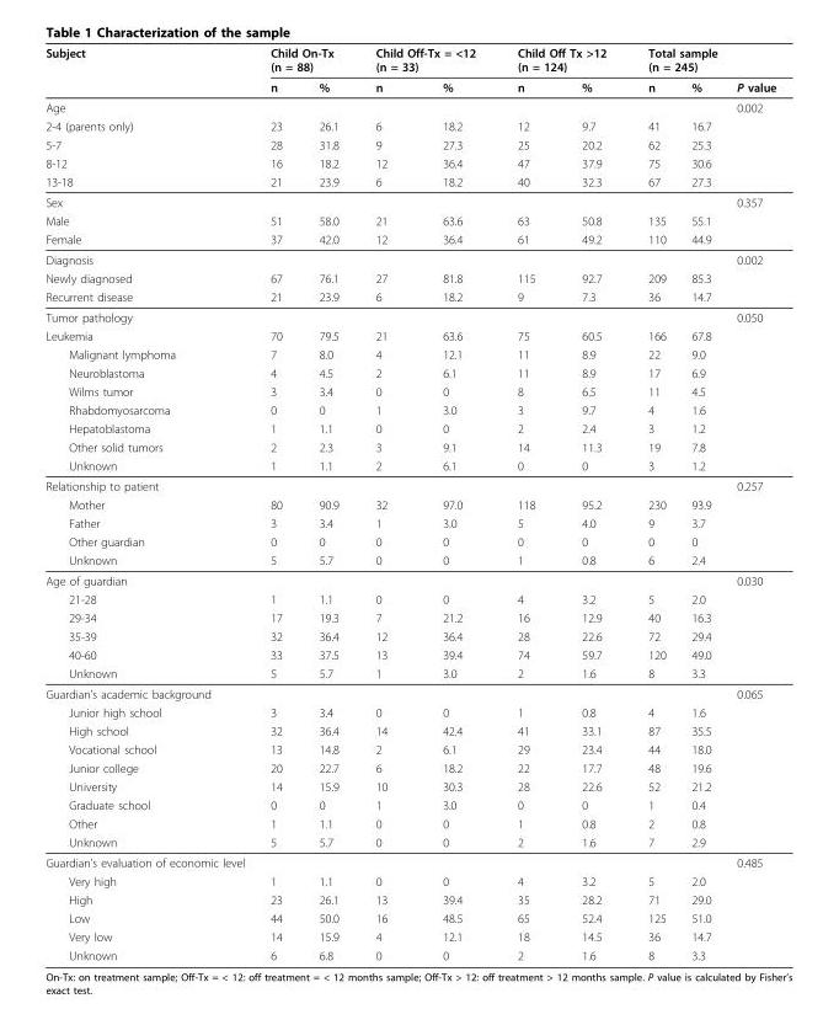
<table><thead><tr><td rowspan="2">Subject</td><td colspan="2">Child On-Tx (n = 88)</td><td colspan="2">Child Off-Tx = &lt;12 (n = 33)</td><td colspan="2">Child Off Tx &gt;12 (n = 124)</td><td colspan="3">Total sample (n = 245)</td></tr><tr><td>n</td><td>%</td><td>n</td><td>%</td><td>n</td><td>%</td><td>n</td><td>%</td><td>P value</td></tr></thead><tbody><tr><td>Age</td><td></td><td></td><td></td><td></td><td></td><td></td><td></td><td></td><td>0.002</td></tr><tr><td>2-4 (parents only)</td><td>23</td><td>26.1</td><td>6</td><td>18.2</td><td>12</td><td>9.7</td><td>41</td><td>16.7</td><td></td></tr><tr><td>5-7</td><td>28</td><td>31.8</td><td>9</td><td>27.3</td><td>25</td><td>20.2</td><td>62</td><td>25.3</td><td></td></tr><tr><td>8-12</td><td>16</td><td>18.2</td><td>12</td><td>36.4</td><td>47</td><td>37.9</td><td>75</td><td>30.6</td><td></td></tr><tr><td>13-18</td><td>21</td><td>23.9</td><td>6</td><td>18.2</td><td>40</td><td>32.3</td><td>67</td><td>27.3</td><td></td></tr><tr><td>Sex</td><td></td><td></td><td></td><td></td><td></td><td></td><td></td><td></td><td>0.357</td></tr><tr><td>Male</td><td>51</td><td>58.0</td><td>21</td><td>63.6</td><td>63</td><td>50.8</td><td>135</td><td>55.1</td><td></td></tr><tr><td>Female</td><td>37</td><td>42.0</td><td>12</td><td>36.4</td><td>61</td><td>49.2</td><td>110</td><td>44.9</td><td></td></tr><tr><td>Diagnosis</td><td></td><td></td><td></td><td></td><td></td><td></td><td></td><td></td><td>0.002</td></tr><tr><td>Newly diagnosed</td><td>67</td><td>76.1</td><td>27</td><td>81.8</td><td>115</td><td>92.7</td><td>209</td><td>85.3</td><td></td></tr><tr><td>Recurrent disease</td><td>21</td><td>23.9</td><td>6</td><td>18.2</td><td>9</td><td>7.3</td><td>36</td><td>14.7</td><td></td></tr><tr><td>Tumor pathology</td><td></td><td></td><td></td><td></td><td></td><td></td><td></td><td></td><td>0.050</td></tr><tr><td>Leukemia</td><td>70</td><td>79.5</td><td>21</td><td>63.6</td><td>75</td><td>60.5</td><td>166</td><td>67.8</td><td></td></tr><tr><td>Malignant lymphoma</td><td>7</td><td>8.0</td><td>4</td><td>12.1</td><td>11</td><td>8.9</td><td>22</td><td>9.0</td><td></td></tr><tr><td>Neuroblastoma</td><td>4</td><td>4.5</td><td>2</td><td>6.1</td><td>11</td><td>8.9</td><td>17</td><td>6.9</td><td></td></tr><tr><td>Wilms tumor</td><td>3</td><td>3.4</td><td>0</td><td>0</td><td>8</td><td>6.5</td><td>11</td><td>4.5</td><td></td></tr><tr><td>Rhabdomyosarcoma</td><td>0</td><td>0</td><td>1</td><td>3.0</td><td>3</td><td>9.7</td><td>4</td><td>1.6</td><td></td></tr><tr><td>Hepatoblastoma</td><td>1</td><td>1.1</td><td>0</td><td>0</td><td>2</td><td>2.4</td><td>3</td><td>1.2</td><td></td></tr><tr><td>Other solid tumors</td><td>2</td><td>2.3</td><td>3</td><td>9.1</td><td>14</td><td>11.3</td><td>19</td><td>7.8</td><td></td></tr><tr><td>Unknown</td><td>1</td><td>1.1</td><td>2</td><td>6.1</td><td>0</td><td>0</td><td>3</td><td>1.2</td><td></td></tr><tr><td>Relationship to patient</td><td></td><td></td><td></td><td></td><td></td><td></td><td></td><td></td><td>0.257</td></tr><tr><td>Mother</td><td>80</td><td>90.9</td><td>32</td><td>97.0</td><td>118</td><td>95.2</td><td>230</td><td>93.9</td><td></td></tr><tr><td>Father</td><td>3</td><td>3.4</td><td>1</td><td>3.0</td><td>5</td><td>4.0</td><td>9</td><td>3.7</td><td></td></tr><tr><td>Other guardian</td><td>0</td><td>0</td><td>0</td><td>0</td><td>0</td><td>0</td><td>0</td><td>0</td><td></td></tr><tr><td>Unknown</td><td>5</td><td>5.7</td><td>0</td><td>0</td><td>1</td><td>0.8</td><td>6</td><td>2.4</td><td></td></tr><tr><td>Age of guardian</td><td></td><td></td><td></td><td></td><td></td><td></td><td></td><td></td><td>0.030</td></tr><tr><td>21-28</td><td>1</td><td>1.1</td><td>0</td><td>0</td><td>4</td><td>3.2</td><td>5</td><td>2.0</td><td></td></tr><tr><td>29-34</td><td>17</td><td>19.3</td><td>7</td><td>21.2</td><td>16</td><td>12.9</td><td>40</td><td>16.3</td><td></td></tr><tr><td>35-39</td><td>32</td><td>36.4</td><td>12</td><td>36.4</td><td>28</td><td>22.6</td><td>72</td><td>29.4</td><td></td></tr><tr><td>40-60</td><td>33</td><td>37.5</td><td>13</td><td>39.4</td><td>74</td><td>59.7</td><td>120</td><td>49.0</td><td></td></tr><tr><td>Unknown</td><td>5</td><td>5.7</td><td>1</td><td>3.0</td><td>2</td><td>1.6</td><td>8</td><td>3.3</td><td></td></tr><tr><td>Guardian’s academic background</td><td></td><td></td><td></td><td></td><td></td><td></td><td></td><td></td><td>0.065</td></tr><tr><td>Junior high school</td><td>3</td><td>3.4</td><td>0</td><td>0</td><td>1</td><td>0.8</td><td>4</td><td>1.6</td><td></td></tr><tr><td>High school</td><td>32</td><td>36.4</td><td>14</td><td>42.4</td><td>41</td><td>33.1</td><td>87</td><td>35.5</td><td></td></tr><tr><td>Vocational school</td><td>13</td><td>14.8</td><td>2</td><td>6.1</td><td>29</td><td>23.4</td><td>44</td><td>18.0</td><td></td></tr><tr><td>Junior college</td><td>20</td><td>22.7</td><td>6</td><td>18.2</td><td>22</td><td>17.7</td><td>48</td><td>19.6</td><td></td></tr><tr><td>University</td><td>14</td><td>15.9</td><td>10</td><td>30.3</td><td>28</td><td>22.6</td><td>52</td><td>21.2</td><td></td></tr><tr><td>Graduate school</td><td>0</td><td>0</td><td>1</td><td>3.0</td><td>0</td><td>0</td><td>1</td><td>0.4</td><td></td></tr><tr><td>Other</td><td>1</td><td>1.1</td><td>0</td><td>0</td><td>1</td><td>0.8</td><td>2</td><td>0.8</td><td></td></tr><tr><td>Unknown</td><td>5</td><td>5.7</td><td>0</td><td>0</td><td>2</td><td>1.6</td><td>7</td><td>2.9</td><td></td></tr><tr><td>Guardian’s evaluation of economic level</td><td></td><td></td><td></td><td></td><td></td><td></td><td></td><td></td><td>0.485</td></tr><tr><td>Very high</td><td>1</td><td>1.1</td><td>0</td><td>0</td><td>4</td><td>3.2</td><td>5</td><td>2.0</td><td></td></tr><tr><td>High</td><td>23</td><td>26.1</td><td>13</td><td>39.4</td><td>35</td><td>28.2</td><td>71</td><td>29.0</td><td></td></tr><tr><td>Low</td><td>44</td><td>50.0</td><td>16</td><td>48.5</td><td>65</td><td>52.4</td><td>125</td><td>51.0</td><td></td></tr><tr><td>Very low</td><td>14</td><td>15.9</td><td>4</td><td>12.1</td><td>18</td><td>14.5</td><td>36</td><td>14.7</td><td></td></tr><tr><td>Unknown</td><td>6</td><td>6.8</td><td>0</td><td>0</td><td>2</td><td>1.6</td><td>8</td><td>3.3</td><td></td></tr></tbody></table>